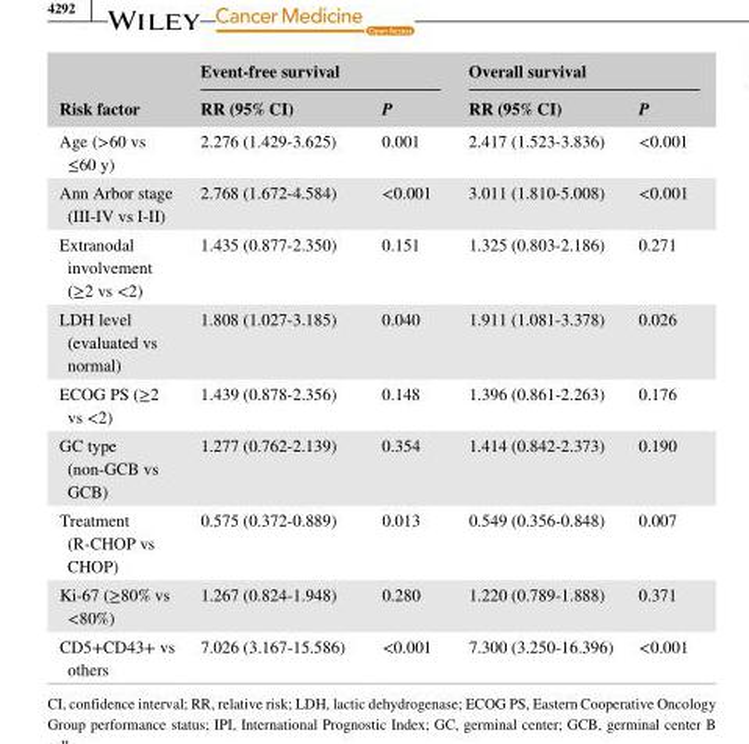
<table><thead><tr><td rowspan="2">Risk factor</td><td colspan="2">Event- free survival</td><td colspan="2">Overall survival</td></tr><tr><td>RR (95% CI)</td><td>P</td><td>RR (95% CI)</td><td>P</td></tr></thead><tbody><tr><td>Age (&gt;60 vs ≤60 y)</td><td>2.276 (1.429- 3.625)</td><td>0.001</td><td>2.417 (1.523- 3.836)</td><td>&lt;0.001</td></tr><tr><td>Ann Arbor stage (III- IV vs I- II)</td><td>2.768 (1.672- 4.584)</td><td>&lt;0.001</td><td>3.011 (1.810- 5.008)</td><td>&lt;0.001</td></tr><tr><td>Extranodal involvement (≥2 vs &lt;2)</td><td>1.435 (0.877- 2.350)</td><td>0.151</td><td>1.325 (0.803- 2.186)</td><td>0.271</td></tr><tr><td>LDH level (evaluated vs normal)</td><td>1.808 (1.027- 3.185)</td><td>0.040</td><td>1.911 (1.081- 3.378)</td><td>0.026</td></tr><tr><td>ECOG PS (≥2 vs &lt;2)</td><td>1.439 (0.878- 2.356)</td><td>0.148</td><td>1.396 (0.861- 2.263)</td><td>0.176</td></tr><tr><td>GC type (non- GCB vs GCB)</td><td>1.277 (0.762- 2.139)</td><td>0.354</td><td>1.414 (0.842- 2.373)</td><td>0.190</td></tr><tr><td>Treatment (R- CHOP vs CHOP)</td><td>0.575 (0.372- 0.889)</td><td>0.013</td><td>0.549 (0.356- 0.848)</td><td>0.007</td></tr><tr><td>Ki- 67 (≥80% vs &lt;80%)</td><td>1.267 (0.824- 1.948)</td><td>0.280</td><td>1.220 (0.789- 1.888)</td><td>0.371</td></tr><tr><td>CD5+CD43+ vs others</td><td>7.026 (3.167- 15.586)</td><td>&lt;0.001</td><td>7.300 (3.250- 16.396)</td><td>&lt;0.001</td></tr></tbody></table>